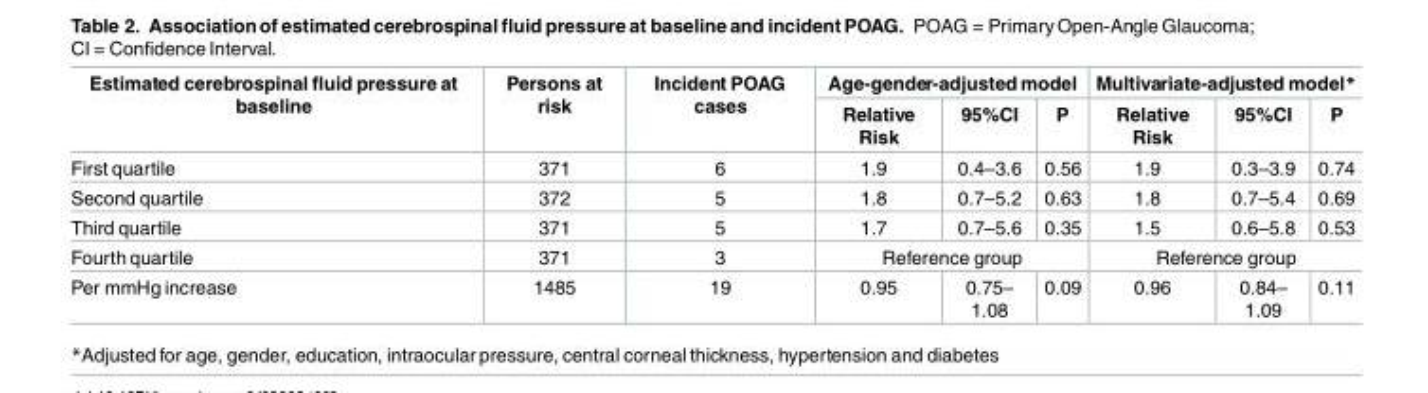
<table><thead><tr><td rowspan="2">Estimated cerebrospinal fluid pressure at baseline</td><td rowspan="2">Persons at risk</td><td rowspan="2">Incident POAG cases</td><td colspan="3">Age-gender-adjusted model</td><td colspan="3">Multivariate-adjusted model*</td></tr><tr><td>Relative Risk</td><td>95%CI</td><td>P</td><td>Relative Risk</td><td>95%CI</td><td>P</td></tr></thead><tbody><tr><td>First quartile</td><td>371</td><td>6</td><td>1.9</td><td>0.4–3.6</td><td>0.56</td><td>1.9</td><td>0.3–3.9</td><td>0.74</td></tr><tr><td>Second quartile</td><td>372</td><td>5</td><td>1.8</td><td>0.7–5.2</td><td>0.63</td><td>1.8</td><td>0.7–5.4</td><td>0.69</td></tr><tr><td>Third quartile</td><td>371</td><td>5</td><td>1.7</td><td>0.7–5.6</td><td>0.35</td><td>1.5</td><td>0.6–5.8</td><td>0.53</td></tr><tr><td>Fourth quartile</td><td>371</td><td>3</td><td colspan="3">Reference group</td><td colspan="3">Reference group</td></tr><tr><td>Per mmHg increase</td><td>1485</td><td>19</td><td>0.95</td><td>0.75– 1.08</td><td>0.09</td><td>0.96</td><td>0.84– 1.09</td><td>0.11</td></tr></tbody></table>